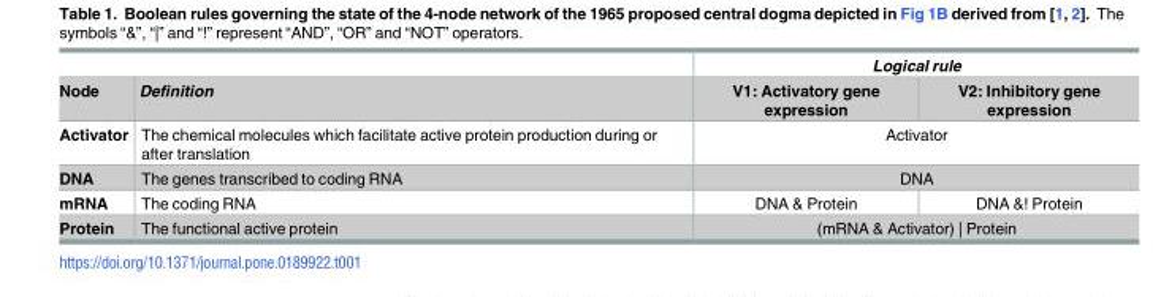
<table><thead><tr><td rowspan="2">Node</td><td rowspan="2">Definition</td><td colspan="2">Logical rule</td></tr><tr><td>V1: Activatory gene expression</td><td>V2: Inhibitory gene expression</td></tr></thead><tbody><tr><td>Activator</td><td>The chemical molecules which facilitate active protein production during or after translation</td><td colspan="2">Activator</td></tr><tr><td>DNA</td><td>The genes transcribed to coding RNA</td><td colspan="2">DNA</td></tr><tr><td>mRNA</td><td>The coding RNA</td><td>DNA &amp; Protein</td><td>DNA &amp;! Protein</td></tr><tr><td>Protein</td><td>The functional active protein</td><td colspan="2">(mRNA &amp; Activator) | Protein</td></tr></tbody></table>